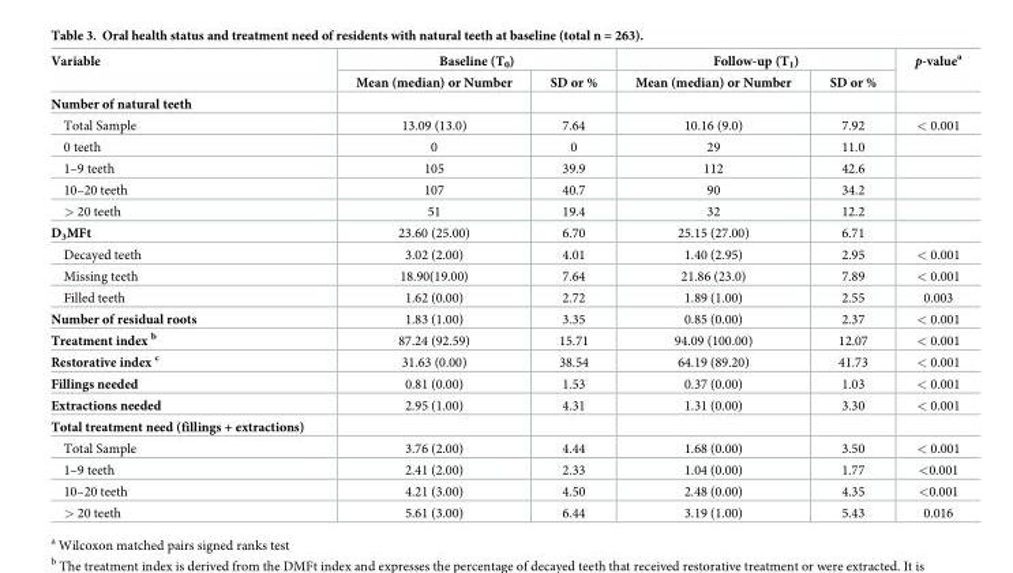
<table><thead><tr><td rowspan="2">Variable</td><td colspan="2">Baseline (T<sub>0</sub>)</td><td colspan="2">Follow-up (T<sub>1</sub>)</td><td rowspan="2">p-value<sup>a</sup></td></tr><tr><td>Mean (median) or Number</td><td>SD or %</td><td>Mean (median) or Number</td><td>SD or %</td></tr></thead><tbody><tr><td colspan="6">Number of natural teeth</td></tr><tr><td>Total Sample</td><td>13.09 (13.0)</td><td>7.64</td><td>10.16 (9.0)</td><td>7.92</td><td>&lt; 0.001</td></tr><tr><td>0 teeth</td><td>0</td><td>0</td><td>29</td><td>11.0</td><td></td></tr><tr><td>1–9 teeth</td><td>105</td><td>39.9</td><td>112</td><td>42.6</td><td></td></tr><tr><td>10–20 teeth</td><td>107</td><td>40.7</td><td>90</td><td>34.2</td><td></td></tr><tr><td>&gt; 20 teeth</td><td>51</td><td>19.4</td><td>32</td><td>12.2</td><td></td></tr><tr><td>D<sub>3</sub>MFt</td><td>23.60 (25.00)</td><td>6.70</td><td>25.15 (27.00)</td><td>6.71</td><td></td></tr><tr><td>Decayed teeth</td><td>3.02 (2.00)</td><td>4.01</td><td>1.40 (2.95)</td><td>2.95</td><td>&lt; 0.001</td></tr><tr><td>Missing teeth</td><td>18.90(19.00)</td><td>7.64</td><td>21.86 (23.0)</td><td>7.89</td><td>&lt; 0.001</td></tr><tr><td>Filled teeth</td><td>1.62 (0.00)</td><td>2.72</td><td>1.89 (1.00)</td><td>2.55</td><td>0.003</td></tr><tr><td>Number of residual roots</td><td>1.83 (1.00)</td><td>3.35</td><td>0.85 (0.00)</td><td>2.37</td><td>&lt; 0.001</td></tr><tr><td>Treatment index <sup>b</sup></td><td>87.24 (92.59)</td><td>15.71</td><td>94.09 (100.00)</td><td>12.07</td><td>&lt; 0.001</td></tr><tr><td>Restorative index <sup>c</sup></td><td>31.63 (0.00)</td><td>38.54</td><td>64.19 (89.20)</td><td>41.73</td><td>&lt; 0.001</td></tr><tr><td>Fillings needed</td><td>0.81 (0.00)</td><td>1.53</td><td>0.37 (0.00)</td><td>1.03</td><td>&lt; 0.001</td></tr><tr><td>Extractions needed</td><td>2.95 (1.00)</td><td>4.31</td><td>1.31 (0.00)</td><td>3.30</td><td>&lt; 0.001</td></tr><tr><td colspan="6">Total treatment need (fillings + extractions)</td></tr><tr><td>Total Sample</td><td>3.76 (2.00)</td><td>4.44</td><td>1.68 (0.00)</td><td>3.50</td><td>&lt; 0.001</td></tr><tr><td>1–9 teeth</td><td>2.41 (2.00)</td><td>2.33</td><td>1.04 (0.00)</td><td>1.77</td><td>&lt;0.001</td></tr><tr><td>10–20 teeth</td><td>4.21 (3.00)</td><td>4.50</td><td>2.48 (0.00)</td><td>4.35</td><td>&lt;0.001</td></tr><tr><td>&gt; 20 teeth</td><td>5.61 (3.00)</td><td>6.44</td><td>3.19 (1.00)</td><td>5.43</td><td>0.016</td></tr></tbody></table>